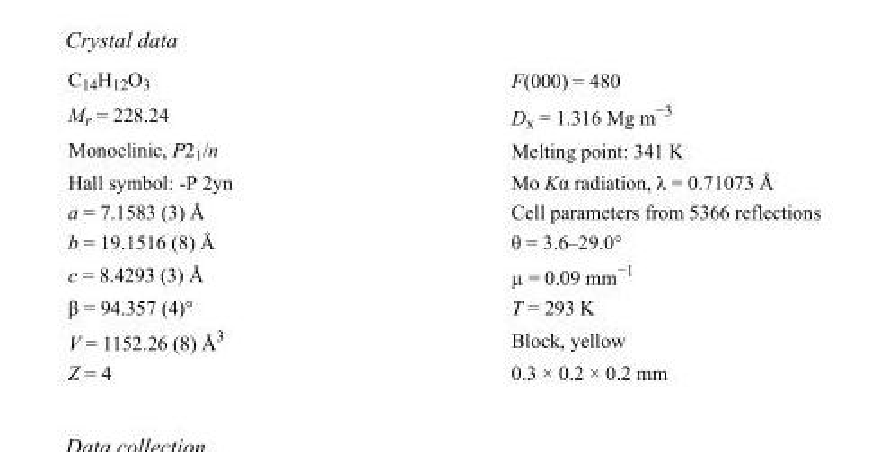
<table><tbody><tr><td>C<sub>14</sub>H<sub>12</sub>O<sub>3</sub></td><td>F(000) = 480</td></tr><tr><td>M<sub>r</sub> = 228.24</td><td>D<sub>x</sub> = 1.316 Mg m<sup>−3</sup></td></tr><tr><td>Monoclinic, P2<sub>1</sub>/n</td><td>Melting point: 341 K</td></tr><tr><td>Hall symbol: -P 2yn</td><td>Mo Kα radiation, λ = 0.71073 Å</td></tr><tr><td>a = 7.1583 (3) Å</td><td>Cell parameters from 5366 reflections</td></tr><tr><td>b = 19.1516 (8) Å</td><td>θ = 3.6–29.0°</td></tr><tr><td>c = 8.4293 (3) Å</td><td>µ = 0.09 mm<sup>−1</sup></td></tr><tr><td>β = 94.357 (4)°</td><td>T = 293 K</td></tr><tr><td>V = 1152.26 (8) Å<sup>3</sup></td><td>Block, yellow</td></tr><tr><td>Z = 4</td><td>0.3 × 0.2 × 0.2 mm</td></tr></tbody></table>